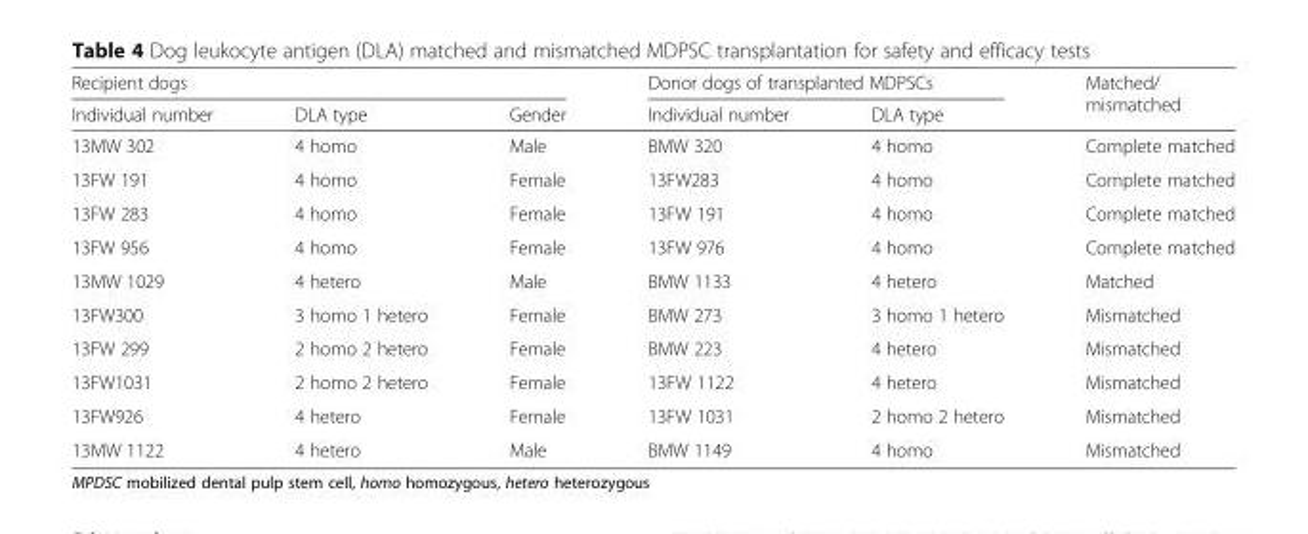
<table><thead><tr><td colspan="3">Recipient dogs</td><td colspan="2">Donor dogs of transplanted MDPSCs</td><td rowspan="2">Matched/ mismatched</td></tr><tr><td>Individual number</td><td>DLA type</td><td>Gender</td><td>Individual number</td><td>DLA type</td></tr></thead><tbody><tr><td>13MW 302</td><td>4 homo</td><td>Male</td><td>BMW 320</td><td>4 homo</td><td>Complete matched</td></tr><tr><td>13FW 191</td><td>4 homo</td><td>Female</td><td>13FW283</td><td>4 homo</td><td>Complete matched</td></tr><tr><td>13FW 283</td><td>4 homo</td><td>Female</td><td>13FW 191</td><td>4 homo</td><td>Complete matched</td></tr><tr><td>13FW 956</td><td>4 homo</td><td>Female</td><td>13FW 976</td><td>4 homo</td><td>Complete matched</td></tr><tr><td>13MW 1029</td><td>4 hetero</td><td>Male</td><td>BMW 1133</td><td>4 hetero</td><td>Matched</td></tr><tr><td>13FW300</td><td>3 homo 1 hetero</td><td>Female</td><td>BMW 273</td><td>3 homo 1 hetero</td><td>Mismatched</td></tr><tr><td>13FW 299</td><td>2 homo 2 hetero</td><td>Female</td><td>BMW 223</td><td>4 hetero</td><td>Mismatched</td></tr><tr><td>13FW1031</td><td>2 homo 2 hetero</td><td>Female</td><td>13FW 1122</td><td>4 hetero</td><td>Mismatched</td></tr><tr><td>13FW926</td><td>4 hetero</td><td>Female</td><td>13FW 1031</td><td>2 homo 2 hetero</td><td>Mismatched</td></tr><tr><td>13MW 1122</td><td>4 hetero</td><td>Male</td><td>BMW 1149</td><td>4 homo</td><td>Mismatched</td></tr></tbody></table>